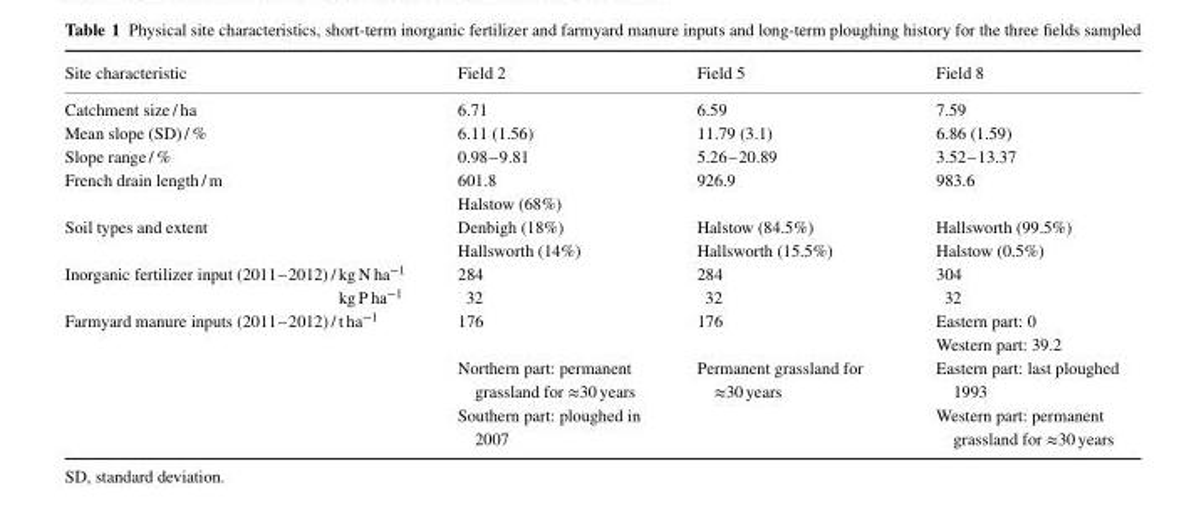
<table><thead><tr><td>Site characteristic</td><td>Field 2</td><td>Field 5</td><td>Field 8</td></tr></thead><tbody><tr><td>Catchment size / ha</td><td>6.71</td><td>6.59</td><td>7.59</td></tr><tr><td>Mean slope (SD) / %</td><td>6.11 (1.56)</td><td>11.79 (3.1)</td><td>6.86 (1.59)</td></tr><tr><td>Slope range / %</td><td>0.98–9.81</td><td>5.26–20.89</td><td>3.52–13.37</td></tr><tr><td rowspan="2">French drain length / m</td><td>601.8</td><td>926.9</td><td>983.6</td></tr><tr><td>Halstow (68%)</td><td></td><td></td></tr><tr><td>Soil types and extent</td><td>Denbigh (18%) Hallsworth (14%)</td><td>Halstow (84.5%) Hallsworth (15.5%)</td><td>Hallsworth (99.5%) Halstow (0.5%)</td></tr><tr><td>Inorganic fertilizer input (2011–2012) / kg N ha<sup>−1</sup> kg P ha<sup>−1</sup></td><td>284 32</td><td>284 32</td><td>304 32</td></tr><tr><td rowspan="3">Farmyard manure inputs (2011–2012) / t ha<sup>−1</sup></td><td>176</td><td>176</td><td>Eastern part: 0 Western part: 39.2</td></tr><tr><td>Northern part: permanent grassland for ≈30 years</td><td rowspan="2">Permanent grassland for ≈30 years</td><td>Eastern part: last ploughed 1993</td></tr><tr><td>Southern part: ploughed in 2007</td><td>Western part: permanent grassland for ≈30 years</td></tr></tbody></table>